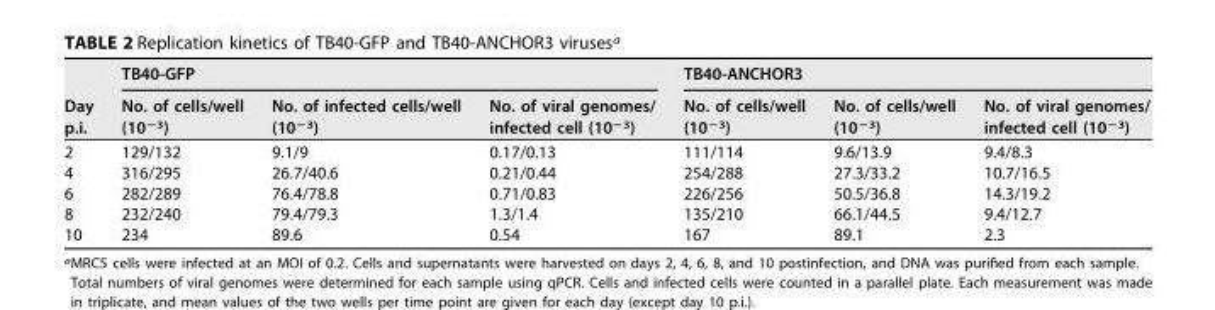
<table><thead><tr><td rowspan="2">Day p.i.</td><td colspan="3">TB40-GFP</td><td colspan="3">TB40-ANCHOR3</td></tr><tr><td>No. of cells/well (10<sup>−3</sup>)</td><td>No. of infected cells/well (10<sup>−3</sup>)</td><td>No. of viral genomes/ infected cell (10<sup>−3</sup>)</td><td>No. of cells/well (10<sup>−3</sup>)</td><td>No. of cells/well (10<sup>−3</sup>)</td><td>No. of viral genomes/ infected cell (10<sup>−3</sup>)</td></tr></thead><tbody><tr><td>2</td><td>129/132</td><td>9.1/9</td><td>0.17/0.13</td><td>111/114</td><td>9.6/13.9</td><td>9.4/8.3</td></tr><tr><td>4</td><td>316/295</td><td>26.7/40.6</td><td>0.21/0.44</td><td>254/288</td><td>27.3/33.2</td><td>10.7/16.5</td></tr><tr><td>6</td><td>282/289</td><td>76.4/78.8</td><td>0.71/0.83</td><td>226/256</td><td>50.5/36.8</td><td>14.3/19.2</td></tr><tr><td>8</td><td>232/240</td><td>79.4/79.3</td><td>1.3/1.4</td><td>135/210</td><td>66.1/44.5</td><td>9.4/12.7</td></tr><tr><td>10</td><td>234</td><td>89.6</td><td>0.54</td><td>167</td><td>89.1</td><td>2.3</td></tr></tbody></table>